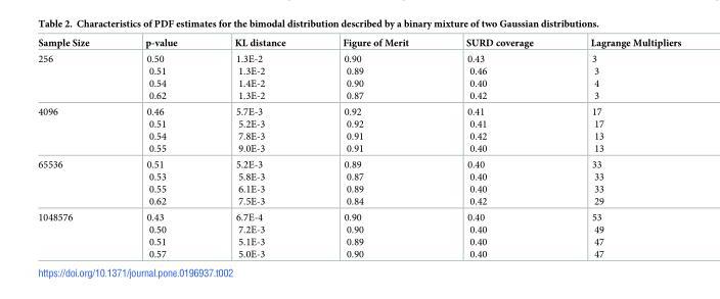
<table><thead><tr><td>Sample Size</td><td>p-value</td><td>KL distance</td><td>Figure of Merit</td><td>SURD coverage</td><td>Lagrange Multipliers</td></tr></thead><tbody><tr><td>256</td><td>0.50 0.51 0.54 0.62</td><td>1.3E-2 1.3E-2 1.4E-2 1.3E-2</td><td>0.90 0.89 0.90 0.87</td><td>0.43 0.46 0.40 0.42</td><td>3 3 4 3</td></tr><tr><td>4096</td><td>0.46 0.51 0.54 0.55</td><td>5.7E-3 5.2E-3 7.8E-3 9.0E-3</td><td>0.92 0.92 0.91 0.91</td><td>0.41 0.41 0.42 0.40</td><td>17 17 13 13</td></tr><tr><td>65536</td><td>0.51 0.53 0.55 0.62</td><td>5.2E-3 5.8E-3 6.1E-3 7.5E-3</td><td>0.89 0.87 0.89 0.84</td><td>0.40 0.40 0.40 0.42</td><td>33 33 33 29</td></tr><tr><td>1048576</td><td>0.43 0.50 0.51 0.57</td><td>6.7E-4 7.2E-3 5.1E-3 5.0E-3</td><td>0.90 0.90 0.89 0.90</td><td>0.40 0.40 0.40 0.40</td><td>53 49 47 47</td></tr></tbody></table>